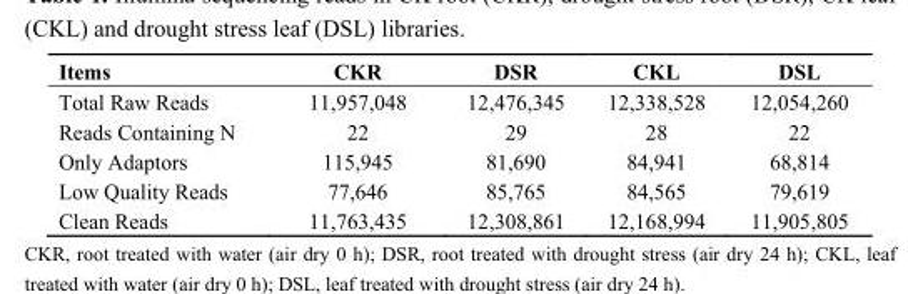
<table><thead><tr><td>Items</td><td>CKR</td><td>DSR</td><td>CKL</td><td>DSL</td></tr></thead><tbody><tr><td>Total Raw Reads</td><td>11,957,048</td><td>12,476,345</td><td>12,338,528</td><td>12,054,260</td></tr><tr><td>Reads Containing N</td><td>22</td><td>29</td><td>28</td><td>22</td></tr><tr><td>Only Adaptors</td><td>115,945</td><td>81,690</td><td>84,941</td><td>68,814</td></tr><tr><td>Low Quality Reads</td><td>77,646</td><td>85,765</td><td>84,565</td><td>79,619</td></tr><tr><td>Clean Reads</td><td>11,763,435</td><td>12,308,861</td><td>12,168,994</td><td>11,905,805</td></tr></tbody></table>